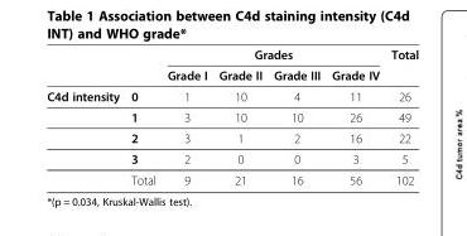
<table><thead><tr><td rowspan="2"></td><td rowspan="2"></td><td colspan="4">Grades</td><td rowspan="2">Total</td></tr><tr><td>Grade I</td><td>Grade II</td><td>Grade III</td><td>Grade IV</td></tr></thead><tbody><tr><td rowspan="5">C4d intensity</td><td>0</td><td>1</td><td>10</td><td>4</td><td>11</td><td>26</td></tr><tr><td>1</td><td>3</td><td>10</td><td>10</td><td>26</td><td>49</td></tr><tr><td>2</td><td>3</td><td>1</td><td>2</td><td>16</td><td>22</td></tr><tr><td>3</td><td>2</td><td>0</td><td>0</td><td>3</td><td>5</td></tr><tr><td>Total</td><td>9</td><td>21</td><td>16</td><td>56</td><td>102</td></tr></tbody></table>